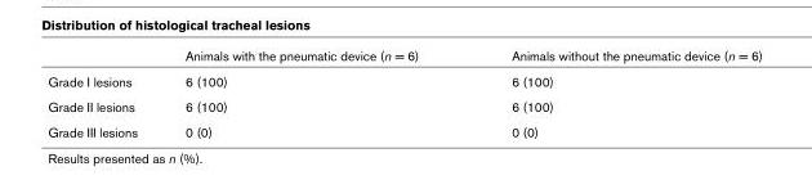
<table><thead><tr><td></td><td>Animals with the pneumatic device (n = 6)</td><td>Animals without the pneumatic device (n = 6)</td></tr></thead><tbody><tr><td>Grade I lesions</td><td>6 (100)</td><td>6 (100)</td></tr><tr><td>Grade II lesions</td><td>6 (100)</td><td>6 (100)</td></tr><tr><td>Grade III lesions</td><td>0 (0)</td><td>0 (0)</td></tr></tbody></table>